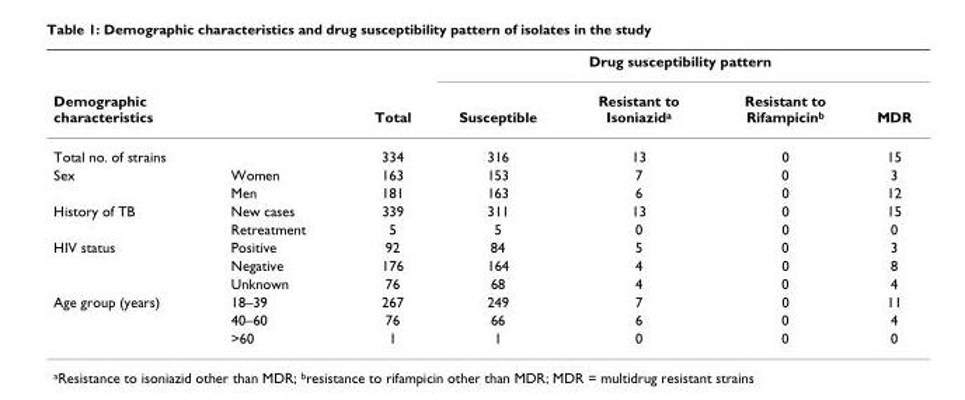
<table><thead><tr><td></td><td></td><td rowspan="2">Total</td><td colspan="4">Drug susceptibility pattern</td></tr><tr><td colspan="2">Demographic characteristics</td><td>Susceptible</td><td>Resistant to Isoniazid<sup>a</sup></td><td>Resistant to Rifampicin<sup>b</sup></td><td>MDR</td></tr></thead><tbody><tr><td colspan="2">Total no. of strains</td><td>334</td><td>316</td><td>13</td><td>0</td><td>15</td></tr><tr><td rowspan="2">Sex</td><td>Women</td><td>163</td><td>153</td><td>7</td><td>0</td><td>3</td></tr><tr><td>Men</td><td>181</td><td>163</td><td>6</td><td>0</td><td>12</td></tr><tr><td rowspan="2">History of TB</td><td>New cases</td><td>339</td><td>311</td><td>13</td><td>0</td><td>15</td></tr><tr><td>Retreatment</td><td>5</td><td>5</td><td>0</td><td>0</td><td>0</td></tr><tr><td rowspan="3">HIV status</td><td>Positive</td><td>92</td><td>84</td><td>5</td><td>0</td><td>3</td></tr><tr><td>Negative</td><td>176</td><td>164</td><td>4</td><td>0</td><td>8</td></tr><tr><td>Unknown</td><td>76</td><td>68</td><td>4</td><td>0</td><td>4</td></tr><tr><td rowspan="3">Age group (years)</td><td>18–39</td><td>267</td><td>249</td><td>7</td><td>0</td><td>11</td></tr><tr><td>40–60</td><td>76</td><td>66</td><td>6</td><td>0</td><td>4</td></tr><tr><td>&gt;60</td><td>1</td><td>1</td><td>0</td><td>0</td><td>0</td></tr></tbody></table>